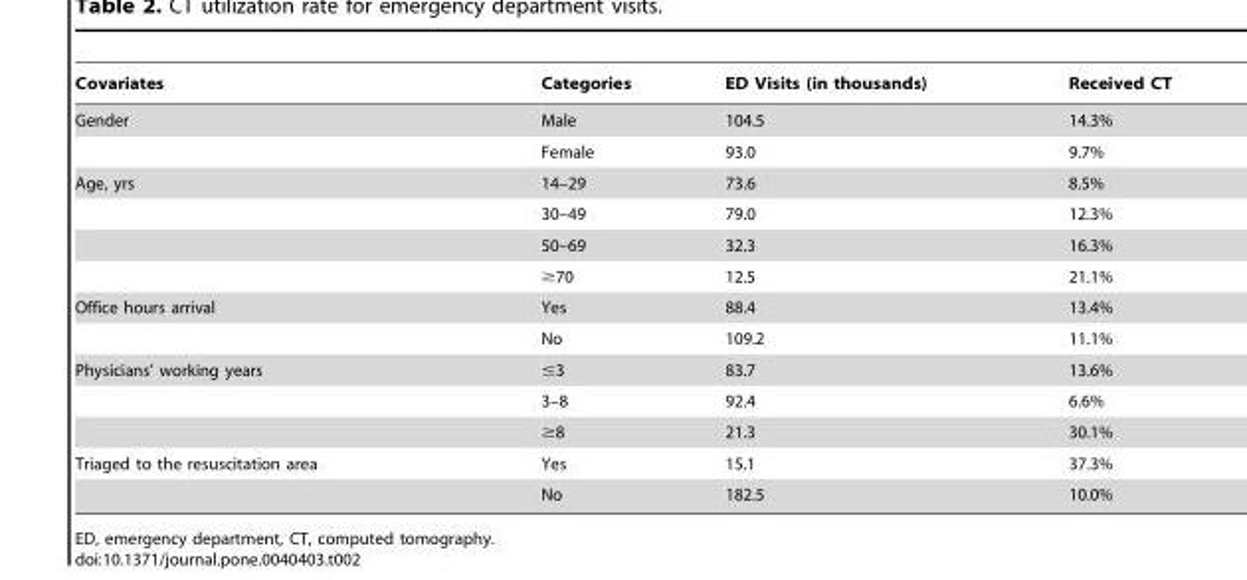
<table><thead><tr><td>Covariates</td><td>Categories</td><td>ED Visits (in thousands)</td><td>Received CT</td></tr></thead><tbody><tr><td rowspan="2">Gender</td><td>Male</td><td>104.5</td><td>14.3%</td></tr><tr><td>Female</td><td>93.0</td><td>9.7%</td></tr><tr><td rowspan="4">Age, yrs</td><td>14–29</td><td>73.6</td><td>8.5%</td></tr><tr><td>30–49</td><td>79.0</td><td>12.3%</td></tr><tr><td>50–69</td><td>32.3</td><td>16.3%</td></tr><tr><td>≥70</td><td>12.5</td><td>21.1%</td></tr><tr><td rowspan="2">Office hours arrival</td><td>Yes</td><td>88.4</td><td>13.4%</td></tr><tr><td>No</td><td>109.2</td><td>11.1%</td></tr><tr><td rowspan="3">Physicians’ working years</td><td>≤3</td><td>83.7</td><td>13.6%</td></tr><tr><td>3–8</td><td>92.4</td><td>6.6%</td></tr><tr><td>≥8</td><td>21.3</td><td>30.1%</td></tr><tr><td rowspan="2">Triaged to the resuscitation area</td><td>Yes</td><td>15.1</td><td>37.3%</td></tr><tr><td>No</td><td>182.5</td><td>10.0%</td></tr></tbody></table>